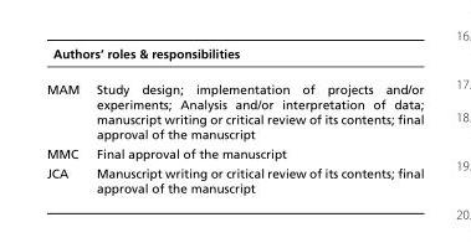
<table><thead><tr><td colspan="2">Authors’ roles &amp; responsibilities</td></tr><tr><td>MAM</td><td>Study design; implementation of projects and/or experiments; Analysis and/or interpretation of data; manuscript writing or critical review of its contents; final approval of the manuscript</td></tr></thead><tbody><tr><td>MMC</td><td>Final approval of the manuscript</td></tr><tr><td>JCA</td><td>Manuscript writing or critical review of its contents; final approval of the manuscript</td></tr></tbody></table>